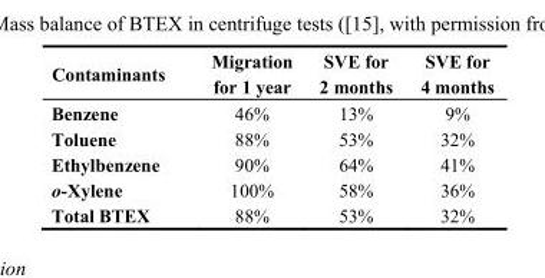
<table><thead><tr><td>Contaminants</td><td>Migration for 1 year</td><td>SVE for 2 months</td><td>SVE for 4 months</td></tr></thead><tbody><tr><td>Benzene</td><td>46%</td><td>13%</td><td>9%</td></tr><tr><td>Toluene</td><td>88%</td><td>53%</td><td>32%</td></tr><tr><td>Ethylbenzene</td><td>90%</td><td>64%</td><td>41%</td></tr><tr><td>o-Xylene</td><td>100%</td><td>58%</td><td>36%</td></tr><tr><td>Total BTEX</td><td>88%</td><td>53%</td><td>32%</td></tr></tbody></table>